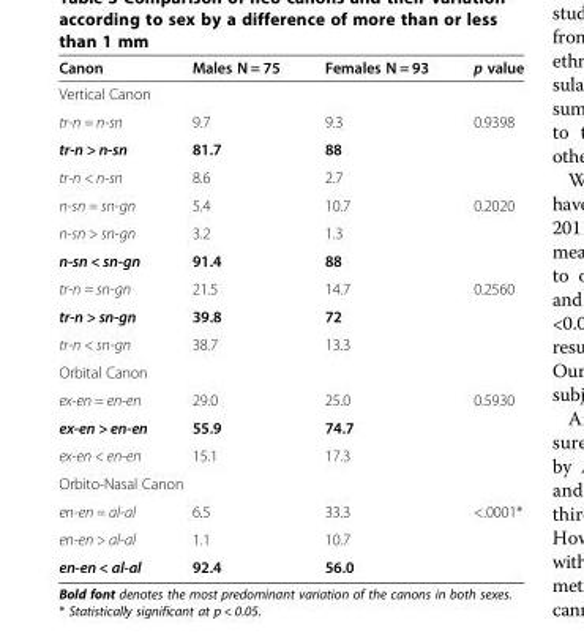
<table><thead><tr><td>Canon</td><td>Males N = 75</td><td>Females N = 93</td><td>p value</td></tr></thead><tbody><tr><td colspan="4">Vertical Canon</td></tr><tr><td>tr-n = n-sn</td><td>9.7</td><td>9.3</td><td>0.9398</td></tr><tr><td>tr-n &gt; n-sn</td><td>81.7</td><td>88</td><td></td></tr><tr><td>tr-n &lt; n-sn</td><td>8.6</td><td>2.7</td><td></td></tr><tr><td>n-sn = sn-gn</td><td>5.4</td><td>10.7</td><td>0.2020</td></tr><tr><td>n-sn &gt; sn-gn</td><td>3.2</td><td>1.3</td><td></td></tr><tr><td>n-sn &lt; sn-gn</td><td>91.4</td><td>88</td><td></td></tr><tr><td>tr-n = sn-gn</td><td>21.5</td><td>14.7</td><td>0.2560</td></tr><tr><td>tr-n &gt; sn-gn</td><td>39.8</td><td>72</td><td></td></tr><tr><td>tr-n &lt; sn-gn</td><td>38.7</td><td>13.3</td><td></td></tr><tr><td colspan="4">Orbital Canon</td></tr><tr><td>ex-en = en-en</td><td>29.0</td><td>25.0</td><td>0.5930</td></tr><tr><td>ex-en &gt; en-en</td><td>55.9</td><td>74.7</td><td></td></tr><tr><td>ex-en &lt; en-en</td><td>15.1</td><td>17.3</td><td></td></tr><tr><td colspan="4">Orbito-Nasal Canon</td></tr><tr><td>en-en = al-al</td><td>6.5</td><td>33.3</td><td>&lt;.0001*</td></tr><tr><td>en-en &gt; al-al</td><td>1.1</td><td>10.7</td><td></td></tr><tr><td>en-en &lt; al-al</td><td>92.4</td><td>56.0</td><td></td></tr></tbody></table>